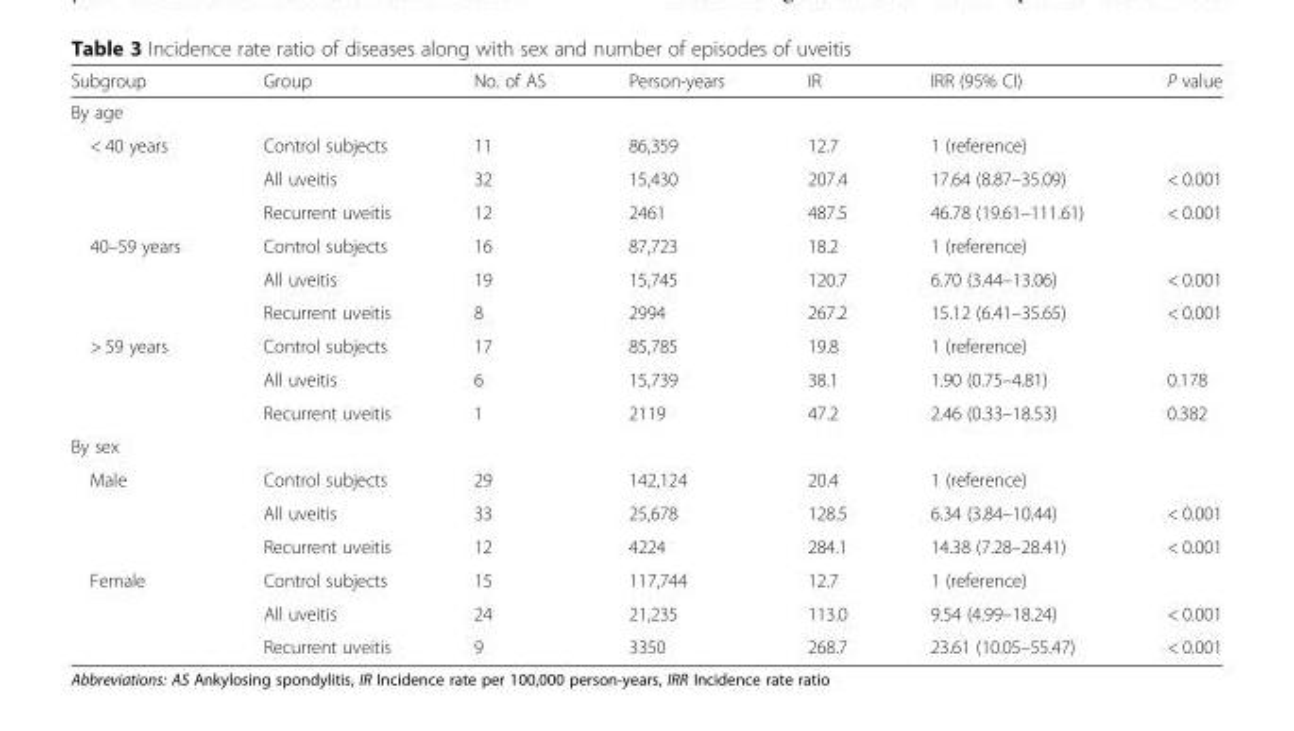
<table><thead><tr><td>Subgroup</td><td>Group</td><td>No. of AS</td><td>Person-years</td><td>IR</td><td>IRR (95% CI)</td><td>P value</td></tr></thead><tbody><tr><td colspan="7">By age</td></tr><tr><td rowspan="3">&lt; 40 years</td><td>Control subjects</td><td>11</td><td>86,359</td><td>12.7</td><td>1 (reference)</td><td></td></tr><tr><td>All uveitis</td><td>32</td><td>15,430</td><td>207.4</td><td>17.64 (8.87–35.09)</td><td>&lt; 0.001</td></tr><tr><td>Recurrent uveitis</td><td>12</td><td>2461</td><td>487.5</td><td>46.78 (19.61–111.61)</td><td>&lt; 0.001</td></tr><tr><td rowspan="3">40–59 years</td><td>Control subjects</td><td>16</td><td>87,723</td><td>18.2</td><td>1 (reference)</td><td></td></tr><tr><td>All uveitis</td><td>19</td><td>15,745</td><td>120.7</td><td>6.70 (3.44–13.06)</td><td>&lt; 0.001</td></tr><tr><td>Recurrent uveitis</td><td>8</td><td>2994</td><td>267.2</td><td>15.12 (6.41–35.65)</td><td>&lt; 0.001</td></tr><tr><td rowspan="3">&gt; 59 years</td><td>Control subjects</td><td>17</td><td>85,785</td><td>19.8</td><td>1 (reference)</td><td></td></tr><tr><td>All uveitis</td><td>6</td><td>15,739</td><td>38.1</td><td>1.90 (0.75–4.81)</td><td>0.178</td></tr><tr><td>Recurrent uveitis</td><td>1</td><td>2119</td><td>47.2</td><td>2.46 (0.33–18.53)</td><td>0.382</td></tr><tr><td colspan="7">By sex</td></tr><tr><td rowspan="3">Male</td><td>Control subjects</td><td>29</td><td>142,124</td><td>20.4</td><td>1 (reference)</td><td></td></tr><tr><td>All uveitis</td><td>33</td><td>25,678</td><td>128.5</td><td>6.34 (3.84–10.44)</td><td>&lt; 0.001</td></tr><tr><td>Recurrent uveitis</td><td>12</td><td>4224</td><td>284.1</td><td>14.38 (7.28–28.41)</td><td>&lt; 0.001</td></tr><tr><td rowspan="3">Female</td><td>Control subjects</td><td>15</td><td>117,744</td><td>12.7</td><td>1 (reference)</td><td></td></tr><tr><td>All uveitis</td><td>24</td><td>21,235</td><td>113.0</td><td>9.54 (4.99–18.24)</td><td>&lt; 0.001</td></tr><tr><td>Recurrent uveitis</td><td>9</td><td>3350</td><td>268.7</td><td>23.61 (10.05–55.47)</td><td>&lt; 0.001</td></tr></tbody></table>